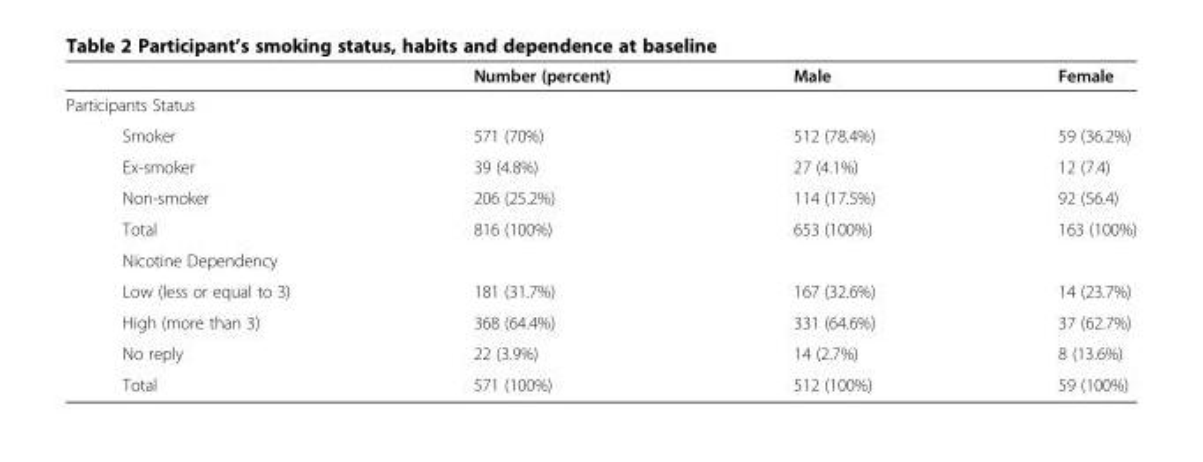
<table><thead><tr><td></td><td>Number (percent)</td><td>Male</td><td>Female</td></tr></thead><tbody><tr><td colspan="4">Participants Status</td></tr><tr><td>Smoker</td><td>571 (70%)</td><td>512 (78.4%)</td><td>59 (36.2%)</td></tr><tr><td>Ex-smoker</td><td>39 (4.8%)</td><td>27 (4.1%)</td><td>12 (7.4)</td></tr><tr><td>Non-smoker</td><td>206 (25.2%)</td><td>114 (17.5%)</td><td>92 (56.4)</td></tr><tr><td>Total</td><td>816 (100%)</td><td>653 (100%)</td><td>163 (100%)</td></tr><tr><td colspan="4">Nicotine Dependency</td></tr><tr><td>Low (less or equal to 3)</td><td>181 (31.7%)</td><td>167 (32.6%)</td><td>14 (23.7%)</td></tr><tr><td>High (more than 3)</td><td>368 (64.4%)</td><td>331 (64.6%)</td><td>37 (62.7%)</td></tr><tr><td>No reply</td><td>22 (3.9%)</td><td>14 (2.7%)</td><td>8 (13.6%)</td></tr><tr><td>Total</td><td>571 (100%)</td><td>512 (100%)</td><td>59 (100%)</td></tr></tbody></table>